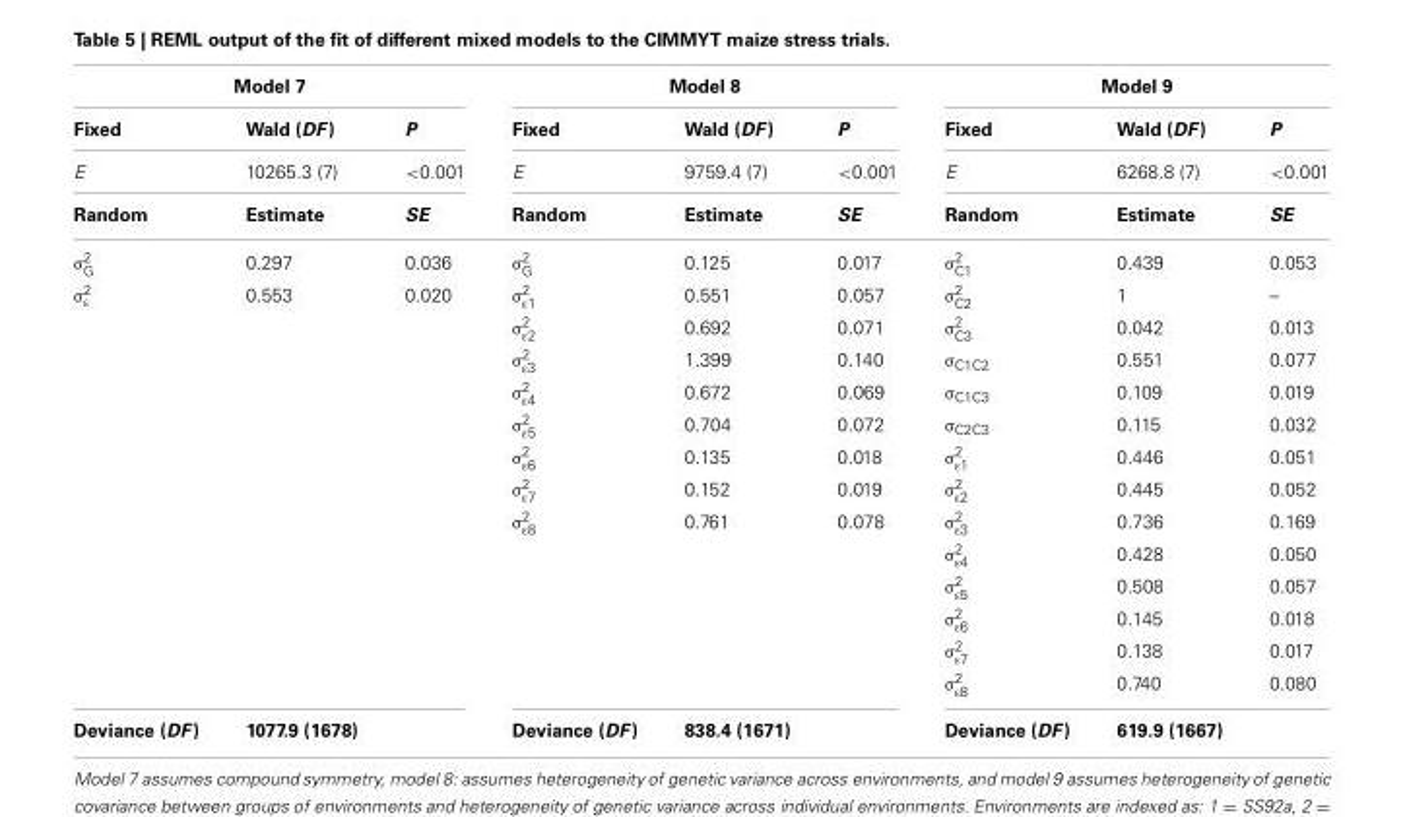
<table><thead><tr><td colspan="3">Model 7</td><td colspan="3">Model 8</td><td colspan="3">Model 9</td></tr><tr><td rowspan="3">Fixed E Random</td><td rowspan="3">Wald (DF) 10265.3 (7) Estimate</td><td rowspan="3">P &lt;0.001 SE</td><td rowspan="3">Fixed E Random</td><td rowspan="3">Wald (DF) 9759.4 (7) Estimate</td><td rowspan="3">P &lt;0.001 SE</td><td rowspan="3">Fixed E Random</td><td rowspan="3">Wald (DF) 6268.8 (7) Estimate</td><td rowspan="3">P &lt;0.001 SE</td></tr><tr></tr><tr></tr></thead><tbody><tr><td>σ<sup>2</sup> <sub>G</sub></td><td>0.297</td><td>0.036</td><td>σ<sup>2</sup> <sub>G</sub></td><td>0.125</td><td>0.017</td><td>σ<sup>2</sup> <sub>C1</sub></td><td>0.439</td><td>0.053</td></tr><tr><td rowspan="13">σ<sup>2</sup> <sub>ε</sub></td><td>0.553</td><td>0.020</td><td>σ<sup>2</sup> <sub>ε1</sub></td><td>0.551</td><td>0.057</td><td>σ<sup>2</sup> <sub>C2</sub></td><td>1</td><td>–</td></tr><tr><td></td><td></td><td>σ<sup>2</sup> <sub>ε2</sub></td><td>0.692</td><td>0.071</td><td>σ<sup>2</sup> <sub>C3</sub></td><td>0.042</td><td>0.013</td></tr><tr><td></td><td></td><td>σ<sup>2</sup> <sub>ε3</sub></td><td>1.399</td><td>0.140</td><td>σ<sub>C1C2</sub></td><td>0.551</td><td>0.077</td></tr><tr><td></td><td></td><td>σ<sup>2</sup> <sub>ε4</sub></td><td>0.672</td><td>0.069</td><td>σ<sub>C1C3</sub></td><td>0.109</td><td>0.019</td></tr><tr><td></td><td></td><td>σ<sup>2</sup> <sub>ε5</sub></td><td>0.704</td><td>0.072</td><td>σ<sub>C2C3</sub></td><td>0.115</td><td>0.032</td></tr><tr><td></td><td></td><td>σ<sup>2</sup> <sub>ε6</sub></td><td>0.135</td><td>0.018</td><td>σ<sup>2</sup> <sub>ε1</sub></td><td>0.446</td><td>0.051</td></tr><tr><td></td><td></td><td>σ<sup>2</sup> <sub>ε7</sub></td><td>0.152</td><td>0.019</td><td>σ<sup>2</sup> <sub>ε2</sub></td><td>0.445</td><td>0.052</td></tr><tr><td></td><td></td><td>σ<sup>2</sup> <sub>ε8</sub></td><td>0.761</td><td>0.078</td><td>σ<sup>2</sup> <sub>ε3</sub></td><td>0.736</td><td>0.169</td></tr><tr><td></td><td></td><td></td><td></td><td></td><td>σ<sup>2</sup> <sub>ε4</sub></td><td>0.428</td><td>0.050</td></tr><tr><td></td><td></td><td></td><td></td><td></td><td>σ<sup>2</sup> <sub>ε5</sub></td><td>0.508</td><td>0.057</td></tr><tr><td></td><td></td><td></td><td></td><td></td><td>σ<sup>2</sup> <sub>ε6</sub></td><td>0.145</td><td>0.018</td></tr><tr><td></td><td></td><td></td><td></td><td></td><td>σ<sup>2</sup> <sub>ε7</sub></td><td>0.138</td><td>0.017</td></tr><tr><td></td><td></td><td></td><td></td><td></td><td>σ<sup>2</sup> <sub>ε8</sub></td><td>0.740</td><td>0.080</td></tr><tr><td>Deviance (DF)</td><td>1077.9 (1678)</td><td></td><td>Deviance (DF)</td><td>838.4 (1671)</td><td></td><td>Deviance (DF)</td><td>619.9 (1667)</td><td></td></tr></tbody></table>